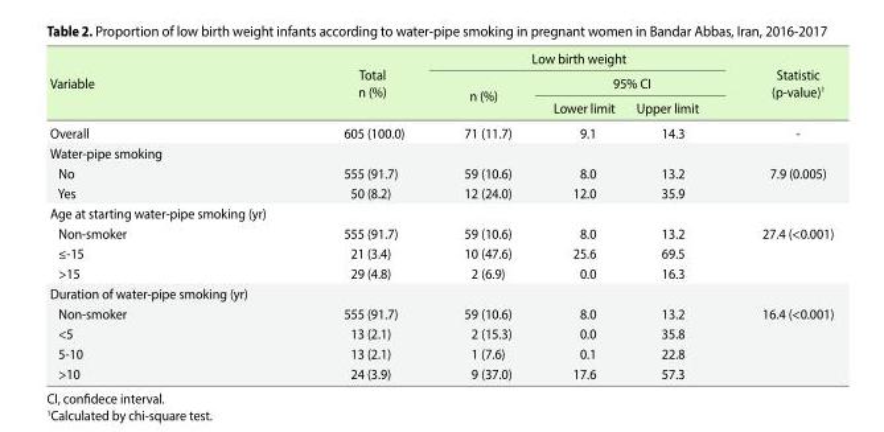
<table><thead><tr><td rowspan="3">Variable</td><td rowspan="3">Total n (%)</td><td colspan="3">Low birth weight</td><td rowspan="3">Statistic (p-value)<sup>1</sup></td></tr><tr><td rowspan="2">n (%)</td><td colspan="2">95% CI</td></tr><tr><td>Lower limit</td><td>Upper limit</td></tr></thead><tbody><tr><td>Overall</td><td>605 (100.0)</td><td>71 (11.7)</td><td>9.1</td><td>14.3</td><td>-</td></tr><tr><td colspan="6">Water-pipe smoking</td></tr><tr><td>No</td><td>555 (91.7)</td><td>59 (10.6)</td><td>8.0</td><td>13.2</td><td>7.9 (0.005)</td></tr><tr><td>Yes</td><td>50 (8.2)</td><td>12 (24.0)</td><td>12.0</td><td>35.9</td><td></td></tr><tr><td colspan="6">Age at starting water-pipe smoking (yr)</td></tr><tr><td>Non-smoker</td><td>555 (91.7)</td><td>59 (10.6)</td><td>8.0</td><td>13.2</td><td>27.4 (&lt;0.001)</td></tr><tr><td>≤-15</td><td>21 (3.4)</td><td>10 (47.6)</td><td>25.6</td><td>69.5</td><td></td></tr><tr><td>&gt;15</td><td>29 (4.8)</td><td>2 (6.9)</td><td>0.0</td><td>16.3</td><td></td></tr><tr><td colspan="6">Duration of water-pipe smoking (yr)</td></tr><tr><td>Non-smoker</td><td>555 (91.7)</td><td>59 (10.6)</td><td>8.0</td><td>13.2</td><td>16.4 (&lt;0.001)</td></tr><tr><td>&lt;5</td><td>13 (2.1)</td><td>2 (15.3)</td><td>0.0</td><td>35.8</td><td></td></tr><tr><td>5-10</td><td>13 (2.1)</td><td>1 (7.6)</td><td>0.1</td><td>22.8</td><td></td></tr><tr><td>&gt;10</td><td>24 (3.9)</td><td>9 (37.0)</td><td>17.6</td><td>57.3</td><td></td></tr></tbody></table>